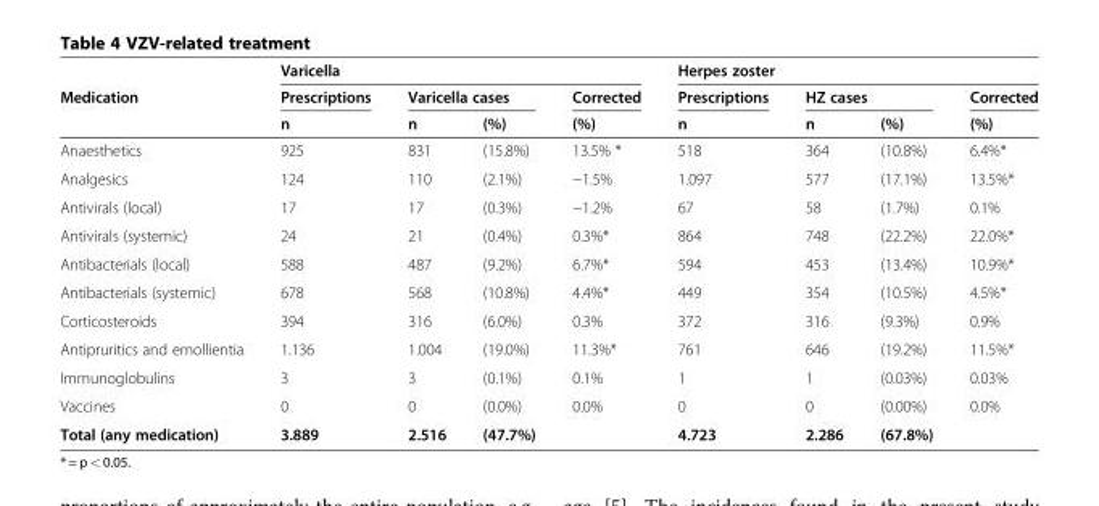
<table><thead><tr><td rowspan="3">Medication</td><td colspan="4">Varicella</td><td colspan="4">Herpes zoster</td></tr><tr><td rowspan="2">Prescriptions n</td><td colspan="2">Varicella cases</td><td rowspan="2">Corrected (%)</td><td rowspan="2">Prescriptions n</td><td colspan="2">HZ cases</td><td rowspan="2">Corrected (%)</td></tr><tr><td>n</td><td>(%)</td><td>n</td><td>(%)</td></tr></thead><tbody><tr><td>Anaesthetics</td><td>925</td><td>831</td><td>(15.8%)</td><td>13.5% *</td><td>518</td><td>364</td><td>(10.8%)</td><td>6.4%*</td></tr><tr><td>Analgesics</td><td>124</td><td>110</td><td>(2.1%)</td><td>−1.5%</td><td>1.097</td><td>577</td><td>(17.1%)</td><td>13.5%*</td></tr><tr><td>Antivirals (local)</td><td>17</td><td>17</td><td>(0.3%)</td><td>−1.2%</td><td>67</td><td>58</td><td>(1.7%)</td><td>0.1%</td></tr><tr><td>Antivirals (systemic)</td><td>24</td><td>21</td><td>(0.4%)</td><td>0.3%*</td><td>864</td><td>748</td><td>(22.2%)</td><td>22.0%*</td></tr><tr><td>Antibacterials (local)</td><td>588</td><td>487</td><td>(9.2%)</td><td>6.7%*</td><td>594</td><td>453</td><td>(13.4%)</td><td>10.9%*</td></tr><tr><td>Antibacterials (systemic)</td><td>678</td><td>568</td><td>(10.8%)</td><td>4.4%*</td><td>449</td><td>354</td><td>(10.5%)</td><td>4.5%*</td></tr><tr><td>Corticosteroids</td><td>394</td><td>316</td><td>(6.0%)</td><td>0.3%</td><td>372</td><td>316</td><td>(9.3%)</td><td>0.9%</td></tr><tr><td>Antipruritics and emollientia</td><td>1.136</td><td>1.004</td><td>(19.0%)</td><td>11.3%*</td><td>761</td><td>646</td><td>(19.2%)</td><td>11.5%*</td></tr><tr><td>Immunoglobulins</td><td>3</td><td>3</td><td>(0.1%)</td><td>0.1%</td><td>1</td><td>1</td><td>(0.03%)</td><td>0.03%</td></tr><tr><td>Vaccines</td><td>0</td><td>0</td><td>(0.0%)</td><td>0.0%</td><td>0</td><td>0</td><td>(0.00%)</td><td>0.0%</td></tr><tr><td>Total (any medication)</td><td>3.889</td><td>2.516</td><td>(47.7%)</td><td></td><td>4.723</td><td>2.286</td><td>(67.8%)</td><td></td></tr></tbody></table>